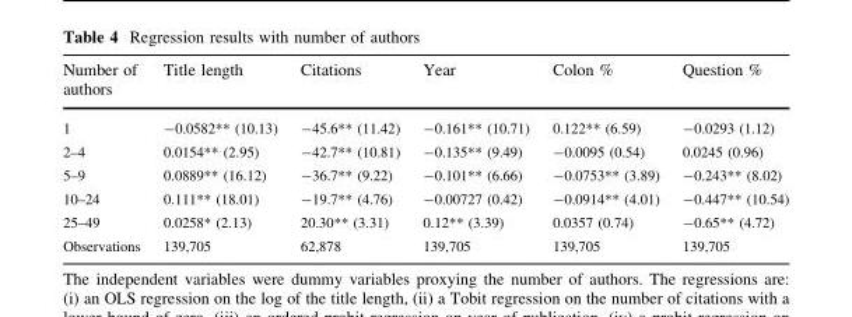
<table><thead><tr><td>Number of authors</td><td>Title length</td><td>Citations</td><td>Year</td><td>Colon %</td><td>Question %</td></tr></thead><tbody><tr><td>1</td><td>-0.0582** (10.13)</td><td>-45.6** (11.42)</td><td>-0.161** (10.71)</td><td>0.122** (6.59)</td><td>-0.0293 (1.12)</td></tr><tr><td>2–4</td><td>0.0154** (2.95)</td><td>-42.7** (10.81)</td><td>-0.135** (9.49)</td><td>-0.0095 (0.54)</td><td>0.0245 (0.96)</td></tr><tr><td>5–9</td><td>0.0889** (16.12)</td><td>-36.7** (9.22)</td><td>-0.101** (6.66)</td><td>-0.0753** (3.89)</td><td>-0.243** (8.02)</td></tr><tr><td>10–24</td><td>0.111** (18.01)</td><td>-19.7** (4.76)</td><td>-0.00727 (0.42)</td><td>-0.0914** (4.01)</td><td>-0.447** (10.54)</td></tr><tr><td>25–49</td><td>0.0258* (2.13)</td><td>20.30** (3.31)</td><td>0.12** (3.39)</td><td>0.0357 (0.74)</td><td>-0.65** (4.72)</td></tr><tr><td>Observations</td><td>139,705</td><td>62,878</td><td>139,705</td><td>139,705</td><td>139,705</td></tr></tbody></table>